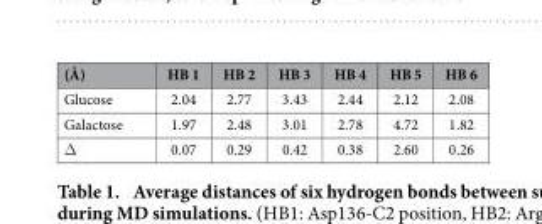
<table><thead><tr><td>(Å)</td><td>HB 1</td><td>HB 2</td><td>HB 3</td><td>HB 4</td><td>HB 5</td><td>HB 6</td></tr></thead><tbody><tr><td>Glucose</td><td>2.04</td><td>2.77</td><td>3.43</td><td>2.44</td><td>2.12</td><td>2.08</td></tr><tr><td>Galactose</td><td>1.97</td><td>2.48</td><td>3.01</td><td>2.78</td><td>4.72</td><td>1.82</td></tr><tr><td>Δ</td><td>0.07</td><td>0.29</td><td>0.42</td><td>0.38</td><td>2.60</td><td>0.26</td></tr></tbody></table>